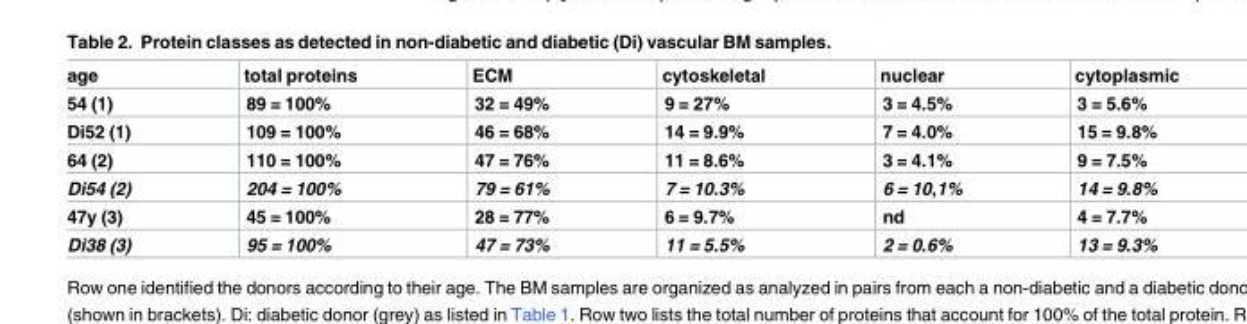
<table><thead><tr><td>age</td><td>total proteins</td><td>ECM</td><td>cytoskeletal</td><td>nuclear</td><td>cytoplasmic</td></tr></thead><tbody><tr><td>54 (1)</td><td>89 = 100%</td><td>32 = 49%</td><td>9 = 27%</td><td>3 = 4.5%</td><td>3 = 5.6%</td></tr><tr><td>Di52 (1)</td><td>109 = 100%</td><td>46 = 68%</td><td>14 = 9.9%</td><td>7 = 4.0%</td><td>15 = 9.8%</td></tr><tr><td>64 (2)</td><td>110 = 100%</td><td>47 = 76%</td><td>11 = 8.6%</td><td>3 = 4.1%</td><td>9 = 7.5%</td></tr><tr><td>Di54 (2)</td><td>204 = 100%</td><td>79 = 61%</td><td>7 = 10.3%</td><td>6 = 10,1%</td><td>14 = 9.8%</td></tr><tr><td>47y (3)</td><td>45 = 100%</td><td>28 = 77%</td><td>6 = 9.7%</td><td>nd</td><td>4 = 7.7%</td></tr><tr><td>Di38 (3)</td><td>95 = 100%</td><td>47 = 73%</td><td>11 = 5.5%</td><td>2 = 0.6%</td><td>13 = 9.3%</td></tr></tbody></table>